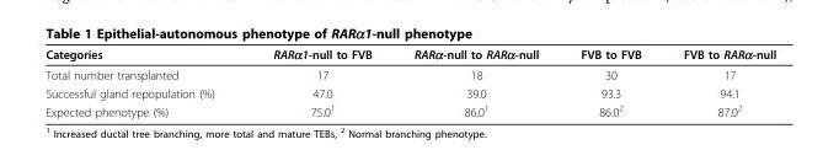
<table><thead><tr><td>Categories</td><td>RARα1-null to FVB</td><td>RARα-null to RARα-null</td><td>FVB to FVB</td><td>FVB to RARα-null</td></tr></thead><tbody><tr><td>Total number transplanted</td><td>17</td><td>18</td><td>30</td><td>17</td></tr><tr><td>Successful gland repopulation (%)</td><td>47.0</td><td>39.0</td><td>93.3</td><td>94.1</td></tr><tr><td>Expected phenotype (%)</td><td>75.0<sup>1</sup></td><td>86.0<sup>1</sup></td><td>86.0<sup>2</sup></td><td>87.0<sup>2</sup></td></tr></tbody></table>